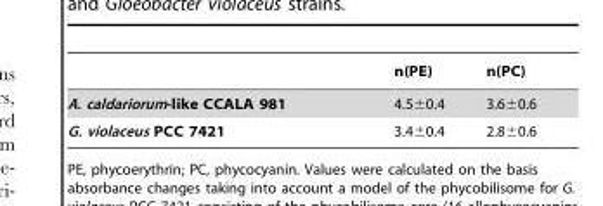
<table><thead><tr><td></td><td>n(PE)</td><td>n(PC)</td></tr></thead><tbody><tr><td>A. caldariorum-like CCALA 981</td><td>4.5±0.4</td><td>3.6±0.6</td></tr><tr><td>G. violaceus PCC 7421</td><td>3.4±0.4</td><td>2.8±0.6</td></tr></tbody></table>